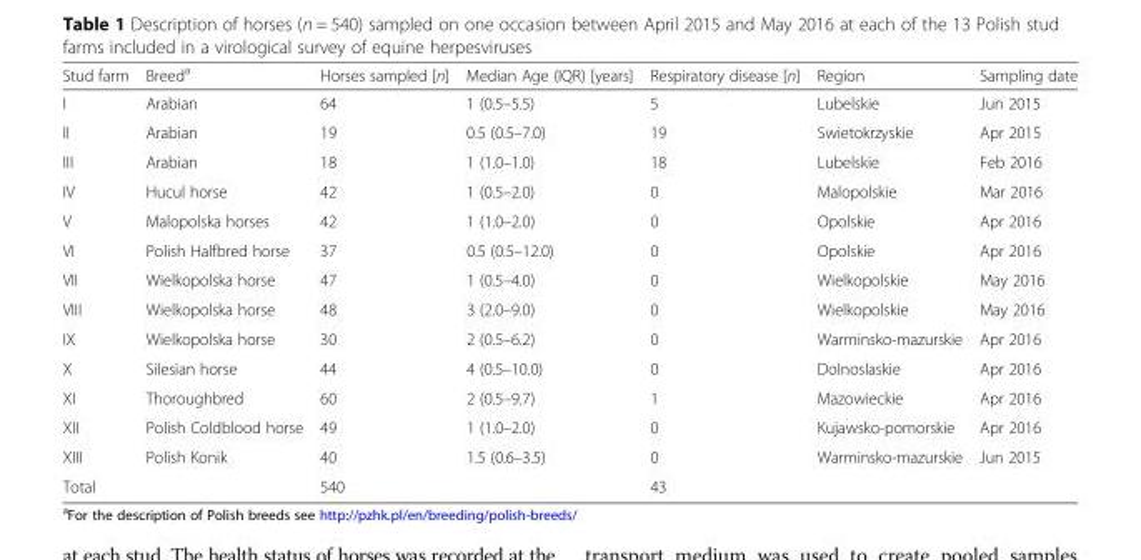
<table><thead><tr><td>Stud farm</td><td>Breed<sup>a</sup></td><td>Horses sampled [n]</td><td>Median Age (IQR) [years]</td><td>Respiratory disease [n]</td><td>Region</td><td>Sampling date</td></tr></thead><tbody><tr><td>I</td><td>Arabian</td><td>64</td><td>1 (0.5–5.5)</td><td>5</td><td>Lubelskie</td><td>Jun 2015</td></tr><tr><td>II</td><td>Arabian</td><td>19</td><td>0.5 (0.5–7.0)</td><td>19</td><td>Swietokrzyskie</td><td>Apr 2015</td></tr><tr><td>III</td><td>Arabian</td><td>18</td><td>1 (1.0–1.0)</td><td>18</td><td>Lubelskie</td><td>Feb 2016</td></tr><tr><td>IV</td><td>Hucul horse</td><td>42</td><td>1 (0.5–2.0)</td><td>0</td><td>Malopolskie</td><td>Mar 2016</td></tr><tr><td>V</td><td>Malopolska horses</td><td>42</td><td>1 (1.0–2.0)</td><td>0</td><td>Opolskie</td><td>Apr 2016</td></tr><tr><td>VI</td><td>Polish Halfbred horse</td><td>37</td><td>0.5 (0.5–12.0)</td><td>0</td><td>Opolskie</td><td>Apr 2016</td></tr><tr><td>VII</td><td>Wielkopolska horse</td><td>47</td><td>1 (0.5–4.0)</td><td>0</td><td>Wielkopolskie</td><td>May 2016</td></tr><tr><td>VIII</td><td>Wielkopolska horse</td><td>48</td><td>3 (2.0–9.0)</td><td>0</td><td>Wielkopolskie</td><td>May 2016</td></tr><tr><td>IX</td><td>Wielkopolska horse</td><td>30</td><td>2 (0.5–6.2)</td><td>0</td><td>Warminsko-mazurskie</td><td>Apr 2016</td></tr><tr><td>X</td><td>Silesian horse</td><td>44</td><td>4 (0.5–10.0)</td><td>0</td><td>Dolnoslaskie</td><td>Apr 2016</td></tr><tr><td>XI</td><td>Thoroughbred</td><td>60</td><td>2 (0.5–9.7)</td><td>1</td><td>Mazowieckie</td><td>Apr 2016</td></tr><tr><td>XII</td><td>Polish Coldblood horse</td><td>49</td><td>1 (1.0–2.0)</td><td>0</td><td>Kujawsko-pomorskie</td><td>Apr 2016</td></tr><tr><td>XIII</td><td>Polish Konik</td><td>40</td><td>1.5 (0.6–3.5)</td><td>0</td><td>Warminsko-mazurskie</td><td>Jun 2015</td></tr><tr><td>Total</td><td></td><td>540</td><td></td><td>43</td><td></td><td></td></tr></tbody></table>